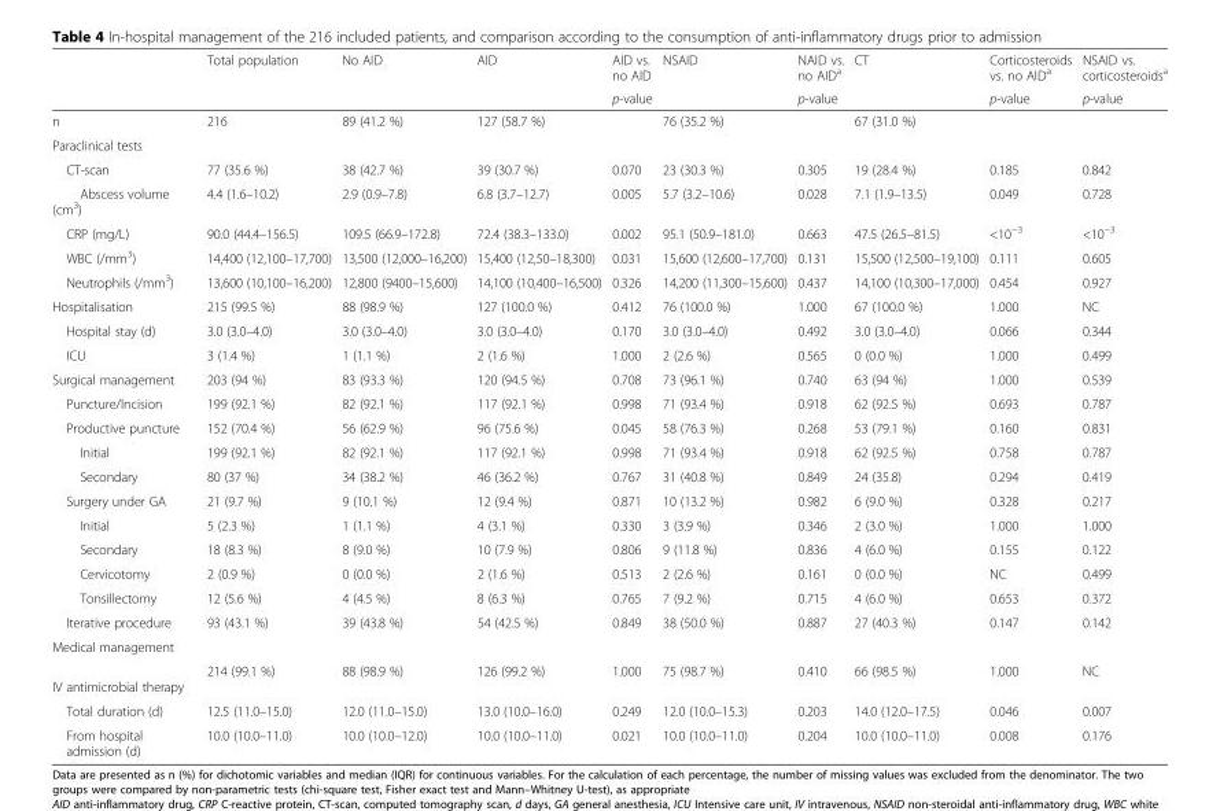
<table><thead><tr><td rowspan="2"></td><td rowspan="2">Total population</td><td rowspan="2">No AID</td><td rowspan="2">AID</td><td rowspan="2">AID vs. no AID p-value</td><td rowspan="2">NSAID</td><td rowspan="2">NAID vs. no AID<sup>a</sup> p-value</td><td rowspan="2">CT</td><td rowspan="2">Corticosteroids vs. no AID<sup>a</sup> p-value</td><td rowspan="2">NSAID vs. corticosteroids<sup>a</sup> p-value</td></tr><tr></tr></thead><tbody><tr><td>n</td><td>216</td><td>89 (41.2 %)</td><td>127 (58.7 %)</td><td></td><td>76 (35.2 %)</td><td></td><td>67 (31.0 %)</td><td></td><td></td></tr><tr><td colspan="10">Paraclinical tests</td></tr><tr><td>CT-scan</td><td>77 (35.6 %)</td><td>38 (42.7 %)</td><td>39 (30.7 %)</td><td>0.070</td><td>23 (30.3 %)</td><td>0.305</td><td>19 (28.4 %)</td><td>0.185</td><td>0.842</td></tr><tr><td>Abscess volume (cm<sup>3</sup>)</td><td>4.4 (1.6–10.2)</td><td>2.9 (0.9–7.8)</td><td>6.8 (3.7–12.7)</td><td>0.005</td><td>5.7 (3.2–10.6)</td><td>0.028</td><td>7.1 (1.9–13.5)</td><td>0.049</td><td>0.728</td></tr><tr><td>CRP (mg/L)</td><td>90.0 (44.4–156.5)</td><td>109.5 (66.9–172.8)</td><td>72.4 (38.3–133.0)</td><td>0.002</td><td>95.1 (50.9–181.0)</td><td>0.663</td><td>47.5 (26.5–81.5)</td><td>&lt;10<sup>−3</sup></td><td>&lt;10<sup>−3</sup></td></tr><tr><td>WBC (/mm<sup>3</sup>)</td><td>14,400 (12,100–17,700)</td><td>13,500 (12,000–16,200)</td><td>15,400 (12,50–18,300)</td><td>0.031</td><td>15,600 (12,600–17,700)</td><td>0.131</td><td>15,500 (12,500–19,100)</td><td>0.111</td><td>0.605</td></tr><tr><td>Neutrophils (/mm<sup>3</sup>)</td><td>13,600 (10,100–16,200)</td><td>12,800 (9400–15,600)</td><td>14,100 (10,400–16,500)</td><td>0.326</td><td>14,200 (11,300–15,600)</td><td>0.437</td><td>14,100 (10,300–17,000)</td><td>0.454</td><td>0.927</td></tr><tr><td>Hospitalisation</td><td>215 (99.5 %)</td><td>88 (98.9 %)</td><td>127 (100.0 %)</td><td>0.412</td><td>76 (100.0 %)</td><td>1.000</td><td>67 (100.0 %)</td><td>1.000</td><td>NC</td></tr><tr><td>Hospital stay (d)</td><td>3.0 (3.0–4.0)</td><td>3.0 (3.0–4.0)</td><td>3.0 (3.0–4.0)</td><td>0.170</td><td>3.0 (3.0–4.0)</td><td>0.492</td><td>3.0 (3.0–4.0)</td><td>0.066</td><td>0.344</td></tr><tr><td>ICU</td><td>3 (1.4 %)</td><td>1 (1.1 %)</td><td>2 (1.6 %)</td><td>1.000</td><td>2 (2.6 %)</td><td>0.565</td><td>0 (0.0 %)</td><td>1.000</td><td>0.499</td></tr><tr><td>Surgical management</td><td>203 (94 %)</td><td>83 (93.3 %)</td><td>120 (94.5 %)</td><td>0.708</td><td>73 (96.1 %)</td><td>0.740</td><td>63 (94 %)</td><td>1.000</td><td>0.539</td></tr><tr><td>Puncture/Incision</td><td>199 (92.1 %)</td><td>82 (92.1 %)</td><td>117 (92.1 %)</td><td>0.998</td><td>71 (93.4 %)</td><td>0.918</td><td>62 (92.5 %)</td><td>0.693</td><td>0.787</td></tr><tr><td>Productive puncture</td><td>152 (70.4 %)</td><td>56 (62.9 %)</td><td>96 (75.6 %)</td><td>0.045</td><td>58 (76.3 %)</td><td>0.268</td><td>53 (79.1 %)</td><td>0.160</td><td>0.831</td></tr><tr><td>Initial</td><td>199 (92.1 %)</td><td>82 (92.1 %)</td><td>117 (92.1 %)</td><td>0.998</td><td>71 (93.4 %)</td><td>0.918</td><td>62 (92.5 %)</td><td>0.758</td><td>0.787</td></tr><tr><td>Secondary</td><td>80 (37 %)</td><td>34 (38.2 %)</td><td>46 (36.2 %)</td><td>0.767</td><td>31 (40.8 %)</td><td>0.849</td><td>24 (35.8)</td><td>0.294</td><td>0.419</td></tr><tr><td>Surgery under GA</td><td>21 (9.7 %)</td><td>9 (10.1 %)</td><td>12 (9.4 %)</td><td>0.871</td><td>10 (13.2 %)</td><td>0.982</td><td>6 (9.0 %)</td><td>0.328</td><td>0.217</td></tr><tr><td>Initial</td><td>5 (2.3 %)</td><td>1 (1.1 %)</td><td>4 (3.1 %)</td><td>0.330</td><td>3 (3.9 %)</td><td>0.346</td><td>2 (3.0 %)</td><td>1.000</td><td>1.000</td></tr><tr><td>Secondary</td><td>18 (8.3 %)</td><td>8 (9.0 %)</td><td>10 (7.9 %)</td><td>0.806</td><td>9 (11.8 %)</td><td>0.836</td><td>4 (6.0 %)</td><td>0.155</td><td>0.122</td></tr><tr><td>Cervicotomy</td><td>2 (0.9 %)</td><td>0 (0.0 %)</td><td>2 (1.6 %)</td><td>0.513</td><td>2 (2.6 %)</td><td>0.161</td><td>0 (0.0 %)</td><td>NC</td><td>0.499</td></tr><tr><td>Tonsillectomy</td><td>12 (5.6 %)</td><td>4 (4.5 %)</td><td>8 (6.3 %)</td><td>0.765</td><td>7 (9.2 %)</td><td>0.715</td><td>4 (6.0 %)</td><td>0.653</td><td>0.372</td></tr><tr><td>Iterative procedure</td><td>93 (43.1 %)</td><td>39 (43.8 %)</td><td>54 (42.5 %)</td><td>0.849</td><td>38 (50.0 %)</td><td>0.887</td><td>27 (40.3 %)</td><td>0.147</td><td>0.142</td></tr><tr><td colspan="10">Medical management</td></tr><tr><td>IV antimicrobial therapy</td><td>214 (99.1 %)</td><td>88 (98.9 %)</td><td>126 (99.2 %)</td><td>1.000</td><td>75 (98.7 %)</td><td>0.410</td><td>66 (98.5 %)</td><td>1.000</td><td>NC</td></tr><tr><td>Total duration (d)</td><td>12.5 (11.0–15.0)</td><td>12.0 (11.0–15.0)</td><td>13.0 (10.0–16.0)</td><td>0.249</td><td>12.0 (10.0–15.3)</td><td>0.203</td><td>14.0 (12.0–17.5)</td><td>0.046</td><td>0.007</td></tr><tr><td>From hospital admission (d)</td><td>10.0 (10.0–11.0)</td><td>10.0 (10.0–12.0)</td><td>10.0 (10.0–11.0)</td><td>0.021</td><td>10.0 (10.0–11.0)</td><td>0.204</td><td>10.0 (10.0–11.0)</td><td>0.008</td><td>0.176</td></tr></tbody></table>